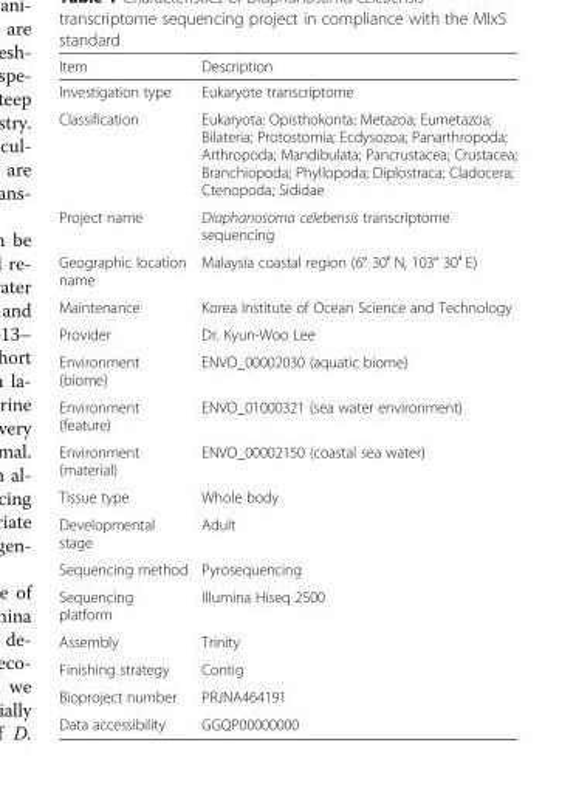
<table><thead><tr><td>Item</td><td>Description</td></tr></thead><tbody><tr><td>Investigation type</td><td>Eukaryote transcriptome</td></tr><tr><td>Classification</td><td>Eukaryota; Opisthokonta; Metazoa; Eumetazoa; Bilateria; Protostomia; Ecdysozoa; Panarthropoda; Arthropoda; Mandibulata; Pancrustacea; Crustacea; Branchiopoda; Phyllopoda; Diplostraca; Cladocera; Ctenopoda; Sididae</td></tr><tr><td>Project name</td><td>Diaphanosoma celebensis transcriptome sequencing</td></tr><tr><td>Geographic location name</td><td>Malaysia coastal region (6° 30′ N, 103° 30′ E)</td></tr><tr><td>Maintenance</td><td>Korea Institute of Ocean Science and Technology</td></tr><tr><td>Provider</td><td>Dr. Kyun-Woo Lee</td></tr><tr><td>Environment (biome)</td><td>ENVO_00002030 (aquatic biome)</td></tr><tr><td>Environment (feature)</td><td>ENVO_01000321 (sea water environment)</td></tr><tr><td>Environment (material)</td><td>ENVO_00002150 (coastal sea water)</td></tr><tr><td>Tissue type</td><td>Whole body</td></tr><tr><td>Developmental stage</td><td>Adult</td></tr><tr><td>Sequencing method</td><td>Pyrosequencing</td></tr><tr><td>Sequencing platform</td><td>Illumina Hiseq 2500</td></tr><tr><td>Assembly</td><td>Trinity</td></tr><tr><td>Finishing strategy</td><td>Contig</td></tr><tr><td>Bioproject number</td><td>PRJNA464191</td></tr><tr><td>Data accessibility</td><td>GGQP00000000</td></tr></tbody></table>